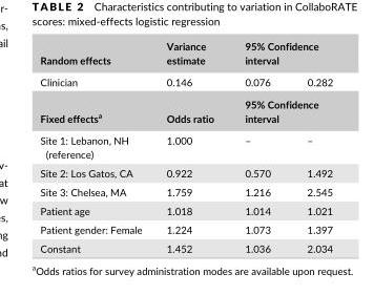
<table><thead><tr><td rowspan="3">Random effects Clinician Fixed effectsa</td><td rowspan="3">Variance estimate 0.146 Odds ratio</td><td colspan="2">95% Confidence interval</td></tr><tr><td>0.076</td><td>0.282</td></tr><tr><td colspan="2">95% Confidence interval</td></tr></thead><tbody><tr><td>Site 1: Lebanon, NH (reference)</td><td>1.000</td><td>–</td><td>–</td></tr><tr><td>Site 2: Los Gatos, CA</td><td>0.922</td><td>0.570</td><td>1.492</td></tr><tr><td>Site 3: Chelsea, MA</td><td>1.759</td><td>1.216</td><td>2.545</td></tr><tr><td>Patient age</td><td>1.018</td><td>1.014</td><td>1.021</td></tr><tr><td>Patient gender: Female</td><td>1.224</td><td>1.073</td><td>1.397</td></tr><tr><td>Constant</td><td>1.452</td><td>1.036</td><td>2.034</td></tr></tbody></table>